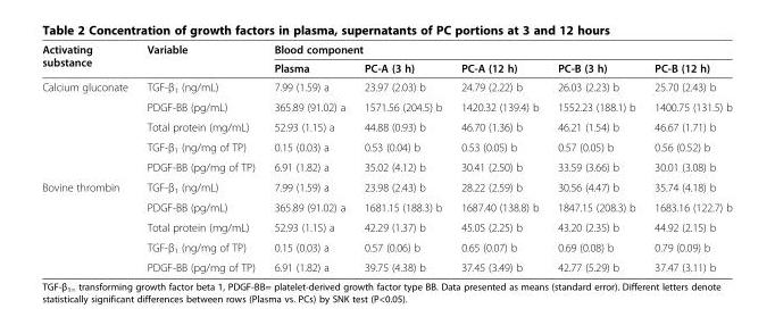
<table><thead><tr><td rowspan="2">Activating substance</td><td rowspan="2">Variable</td><td colspan="5">Blood component</td></tr><tr><td>Plasma</td><td>PC-A (3 h)</td><td>PC-A (12 h)</td><td>PC-B (3 h)</td><td>PC-B (12 h)</td></tr></thead><tbody><tr><td rowspan="5">Calcium gluconate</td><td>TGF-β<sub>1</sub> (ng/mL)</td><td>7.99 (1.59) a</td><td>23.97 (2.03) b</td><td>24.79 (2.22) b</td><td>26.03 (2.23) b</td><td>25.70 (2.43) b</td></tr><tr><td>PDGF-BB (pg/mL)</td><td>365.89 (91.02) a</td><td>1571.56 (204.5) b</td><td>1420.32 (139.4) b</td><td>1552.23 (188.1) b</td><td>1400.75 (131.5) b</td></tr><tr><td>Total protein (mg/mL)</td><td>52.93 (1.15) a</td><td>44.88 (0.93) b</td><td>46.70 (1.36) b</td><td>46.21 (1.54) b</td><td>46.67 (1.71) b</td></tr><tr><td>TGF-β<sub>1</sub> (ng/mg of TP)</td><td>0.15 (0.03) a</td><td>0.53 (0.04) b</td><td>0.53 (0.05) b</td><td>0.57 (0.05) b</td><td>0.56 (0.52) b</td></tr><tr><td>PDGF-BB (pg/mg of TP)</td><td>6.91 (1.82) a</td><td>35.02 (4.12) b</td><td>30.41 (2.50) b</td><td>33.59 (3.66) b</td><td>30.01 (3.08) b</td></tr><tr><td rowspan="5">Bovine thrombin</td><td>TGF-β<sub>1</sub> (ng/mL)</td><td>7.99 (1.59) a</td><td>23.98 (2.43) b</td><td>28.22 (2.59) b</td><td>30.56 (4.47) b</td><td>35.74 (4.18) b</td></tr><tr><td>PDGF-BB (pg/mL)</td><td>365.89 (91.02) a</td><td>1681.15 (188.3) b</td><td>1687.40 (138.8) b</td><td>1847.15 (208.3) b</td><td>1683.16 (122.7) b</td></tr><tr><td>Total protein (mg/mL)</td><td>52.93 (1.15) a</td><td>42.29 (1.37) b</td><td>45.05 (2.25) b</td><td>43.20 (2.35) b</td><td>44.92 (2.15) b</td></tr><tr><td>TGF-β<sub>1</sub> (ng/mg of TP)</td><td>0.15 (0.03) a</td><td>0.57 (0.06) b</td><td>0.65 (0.07) b</td><td>0.69 (0.08) b</td><td>0.79 (0.09) b</td></tr><tr><td>PDGF-BB (pg/mg of TP)</td><td>6.91 (1.82) a</td><td>39.75 (4.38) b</td><td>37.45 (3.49) b</td><td>42.77 (5.29) b</td><td>37.47 (3.11) b</td></tr></tbody></table>